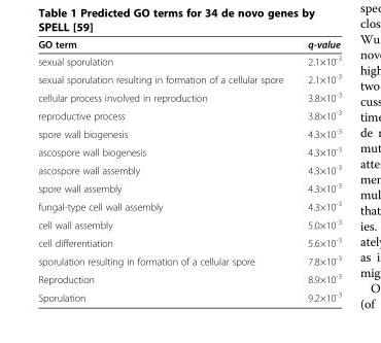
<table><thead><tr><td>GO term</td><td>q-value</td></tr></thead><tbody><tr><td>sexual sporulation</td><td>2.1×10<sup>-3</sup></td></tr><tr><td>sexual sporulation resulting in formation of a cellular spore</td><td>2.1×10<sup>-3</sup></td></tr><tr><td>cellular process involved in reproduction</td><td>3.8×10<sup>-3</sup></td></tr><tr><td>reproductive process</td><td>3.8×10<sup>-3</sup></td></tr><tr><td>spore wall biogenesis</td><td>4.3×10<sup>-3</sup></td></tr><tr><td>ascospore wall biogenesis</td><td>4.3×10<sup>-3</sup></td></tr><tr><td>ascospore wall assembly</td><td>4.3×10<sup>-3</sup></td></tr><tr><td>spore wall assembly</td><td>4.3×10<sup>-3</sup></td></tr><tr><td>fungal-type cell wall assembly</td><td>4.3×10<sup>-3</sup></td></tr><tr><td>cell wall assembly</td><td>5.0×10<sup>-3</sup></td></tr><tr><td>cell differentiation</td><td>5.6×10<sup>-3</sup></td></tr><tr><td>sporulation resulting in formation of a cellular spore</td><td>7.8×10<sup>-3</sup></td></tr><tr><td>Reproduction</td><td>8.9×10<sup>-3</sup></td></tr><tr><td>Sporulation</td><td>9.2×10<sup>-3</sup></td></tr></tbody></table>